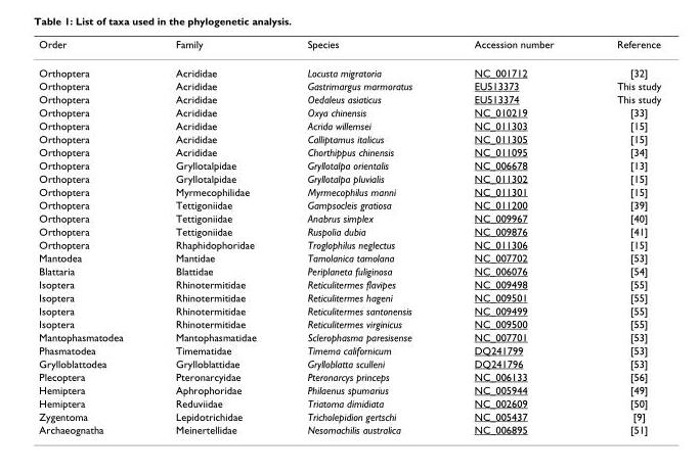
<table><thead><tr><td>Order</td><td>Family</td><td>Species</td><td>Accession number</td><td>Reference</td></tr></thead><tbody><tr><td>Orthoptera</td><td>Acrididae</td><td>Locusta migratoria</td><td>NC_001712</td><td>[32]</td></tr><tr><td>Orthoptera</td><td>Acrididae</td><td>Gastrimargus marmoratus</td><td>EU513373</td><td>This study</td></tr><tr><td>Orthoptera</td><td>Acrididae</td><td>Oedaleus asiaticus</td><td>EU513374</td><td>This study</td></tr><tr><td>Orthoptera</td><td>Acrididae</td><td>Oxya chinensis</td><td>NC_010219</td><td>[33]</td></tr><tr><td>Orthoptera</td><td>Acrididae</td><td>Acrida willemsei</td><td>NC_011303</td><td>[15]</td></tr><tr><td>Orthoptera</td><td>Acrididae</td><td>Calliptamus italicus</td><td>NC_011305</td><td>[15]</td></tr><tr><td>Orthoptera</td><td>Acrididae</td><td>Chorthippus chinensis</td><td>NC_011095</td><td>[34]</td></tr><tr><td>Orthoptera</td><td>Gryllotalpidae</td><td>Gryllotalpa orientalis</td><td>NC_006678</td><td>[13]</td></tr><tr><td>Orthoptera</td><td>Gryllotalpidae</td><td>Gryllotalpa pluvialis</td><td>NC_011302</td><td>[15]</td></tr><tr><td>Orthoptera</td><td>Myrmecophilidae</td><td>Myrmecophilus manni</td><td>NC_011301</td><td>[15]</td></tr><tr><td>Orthoptera</td><td>Tettigoniidae</td><td>Gampsocleis gratiosa</td><td>NC_011200</td><td>[39]</td></tr><tr><td>Orthoptera</td><td>Tettigoniidae</td><td>Anabrus simplex</td><td>NC_009967</td><td>[40]</td></tr><tr><td>Orthoptera</td><td>Tettigoniidae</td><td>Ruspolia dubia</td><td>NC_009876</td><td>[41]</td></tr><tr><td>Orthoptera</td><td>Rhaphidophoridae</td><td>Troglophilus neglectus</td><td>NC_011306</td><td>[15]</td></tr><tr><td>Mantodea</td><td>Mantidae</td><td>Tamolanica tamolana</td><td>NC_007702</td><td>[53]</td></tr><tr><td>Blattaria</td><td>Blattidae</td><td>Periplaneta fuliginosa</td><td>NC_006076</td><td>[54]</td></tr><tr><td>Isoptera</td><td>Rhinotermitidae</td><td>Reticulitermes flavipes</td><td>NC_009498</td><td>[55]</td></tr><tr><td>Isoptera</td><td>Rhinotermitidae</td><td>Reticulitermes hageni</td><td>NC_009501</td><td>[55]</td></tr><tr><td>Isoptera</td><td>Rhinotermitidae</td><td>Reticulitermes santonensis</td><td>NC_009499</td><td>[55]</td></tr><tr><td>Isoptera</td><td>Rhinotermitidae</td><td>Reticulitermes virginicus</td><td>NC_009500</td><td>[55]</td></tr><tr><td>Mantophasmatodea</td><td>Mantophasmatidae</td><td>Sclerophasma paresisense</td><td>NC_007701</td><td>[53]</td></tr><tr><td>Phasmatodea</td><td>Timematidae</td><td>Timema californicum</td><td>DQ241799</td><td>[53]</td></tr><tr><td>Grylloblattodea</td><td>Grylloblattidae</td><td>Grylloblatta sculleni</td><td>DQ241796</td><td>[53]</td></tr><tr><td>Plecoptera</td><td>Pteronarcyidae</td><td>Pteronarcys princeps</td><td>NC_006133</td><td>[56]</td></tr><tr><td>Hemiptera</td><td>Aphrophoridae</td><td>Philaenus spumarius</td><td>NC_005944</td><td>[49]</td></tr><tr><td>Hemiptera</td><td>Reduviidae</td><td>Triatoma dimidiata</td><td>NC_002609</td><td>[50]</td></tr><tr><td>Zygentoma</td><td>Lepidotrichidae</td><td>Tricholepidion gertschi</td><td>NC_005437</td><td>[9]</td></tr><tr><td>Archaeognatha</td><td>Meinertellidae</td><td>Nesomachilis australica</td><td>NC_006895</td><td>[51]</td></tr></tbody></table>